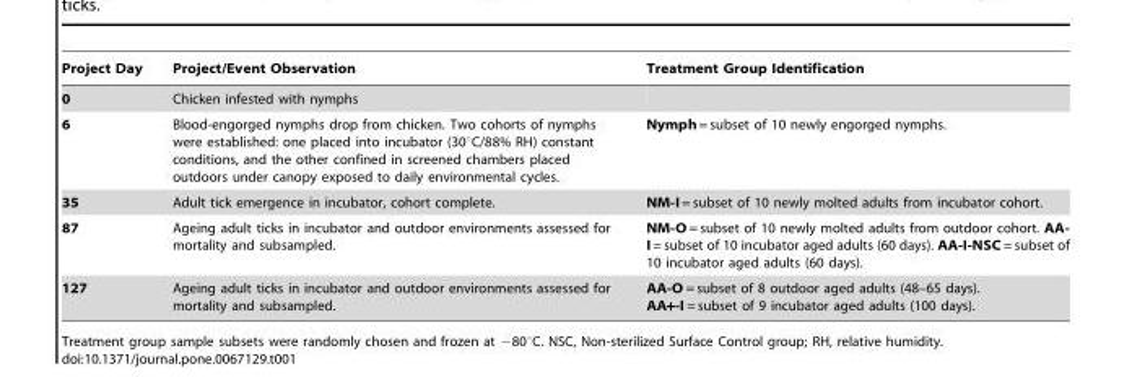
<table><thead><tr><td>Project Day</td><td>Project/Event Observation</td><td>Treatment Group Identification</td></tr></thead><tbody><tr><td>0</td><td>Chicken infested with nymphs</td><td></td></tr><tr><td>6</td><td>Blood-engorged nymphs drop from chicken. Two cohorts of nymphs were established: one placed into incubator (30°C/88% RH) constant conditions, and the other confined in screened chambers placed outdoors under canopy exposed to daily environmental cycles.</td><td>Nymph = subset of 10 newly engorged nymphs.</td></tr><tr><td>35</td><td>Adult tick emergence in incubator, cohort complete.</td><td>NM-I = subset of 10 newly molted adults from incubator cohort.</td></tr><tr><td>87</td><td>Ageing adult ticks in incubator and outdoor environments assessed for mortality and subsampled.</td><td>NM-O = subset of 10 newly molted adults from outdoor cohort. AA- I = subset of 10 incubator aged adults (60 days). AA-I-NSC = subset of 10 incubator aged adults (60 days).</td></tr><tr><td>127</td><td>Ageing adult ticks in incubator and outdoor environments assessed for mortality and subsampled.</td><td>AA-O = subset of 8 outdoor aged adults (48–65 days). AA+-I = subset of 9 incubator aged adults (100 days).</td></tr></tbody></table>